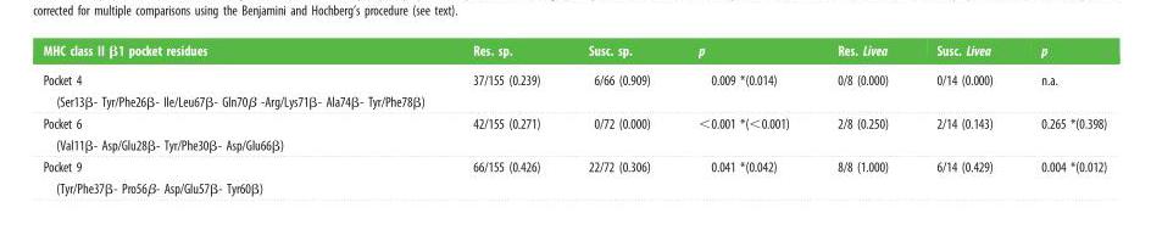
<table><thead><tr><td>MHC class II β1 pocket residues</td><td>Res. sp.</td><td>Susc. sp.</td><td>p</td><td>Res. Livea</td><td>Susc. Livea</td><td>p</td></tr></thead><tbody><tr><td>Pocket 4 (Ser13β- Tyr/Phe26β- Ile/Leu67β- Gln70β -Arg/Lys71β- Ala74β- Tyr/Phe78β)</td><td>37/155 (0.239)</td><td>6/66 (0.909)</td><td>0.009 *(0.014)</td><td>0/8 (0.000)</td><td>0/14 (0.000)</td><td>n.a.</td></tr><tr><td>Pocket 6 (Val11β- Asp/Glu28β- Tyr/Phe30β- Asp/Glu66β)</td><td>42/155 (0.271)</td><td>0/72 (0.000)</td><td>&lt;0.001 *(&lt;0.001)</td><td>2/8 (0.250)</td><td>2/14 (0.143)</td><td>0.265 *(0.398)</td></tr><tr><td>Pocket 9 (Tyr/Phe37β- Pro56β- Asp/Glu57β- Tyr60β)</td><td>66/155 (0.426)</td><td>22/72 (0.306)</td><td>0.041 *(0.042)</td><td>8/8 (1.000)</td><td>6/14 (0.429)</td><td>0.004 *(0.012)</td></tr></tbody></table>